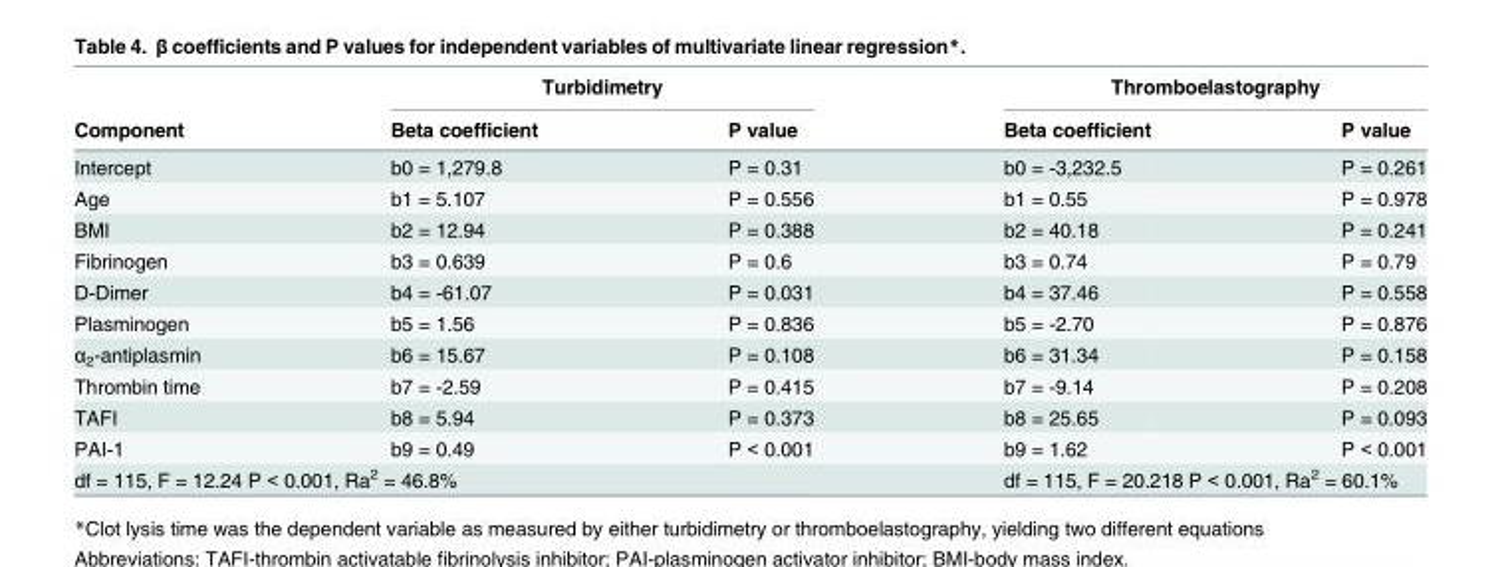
<table><thead><tr><td rowspan="2">Component</td><td colspan="2">Turbidimetry</td><td colspan="2">Thromboelastography</td></tr><tr><td>Beta coefficient</td><td>P value</td><td>Beta coefficient</td><td>P value</td></tr></thead><tbody><tr><td>Intercept</td><td>b0 = 1,279.8</td><td>P = 0.31</td><td>b0 = -3,232.5</td><td>P = 0.261</td></tr><tr><td>Age</td><td>b1 = 5.107</td><td>P = 0.556</td><td>b1 = 0.55</td><td>P = 0.978</td></tr><tr><td>BMI</td><td>b2 = 12.94</td><td>P = 0.388</td><td>b2 = 40.18</td><td>P = 0.241</td></tr><tr><td>Fibrinogen</td><td>b3 = 0.639</td><td>P = 0.6</td><td>b3 = 0.74</td><td>P = 0.79</td></tr><tr><td>D-Dimer</td><td>b4 = -61.07</td><td>P = 0.031</td><td>b4 = 37.46</td><td>P = 0.558</td></tr><tr><td>Plasminogen</td><td>b5 = 1.56</td><td>P = 0.836</td><td>b5 = -2.70</td><td>P = 0.876</td></tr><tr><td>α<sub>2</sub>-antiplasmin</td><td>b6 = 15.67</td><td>P = 0.108</td><td>b6 = 31.34</td><td>P = 0.158</td></tr><tr><td>Thrombin time</td><td>b7 = -2.59</td><td>P = 0.415</td><td>b7 = -9.14</td><td>P = 0.208</td></tr><tr><td>TAFI</td><td>b8 = 5.94</td><td>P = 0.373</td><td>b8 = 25.65</td><td>P = 0.093</td></tr><tr><td>PAI-1</td><td>b9 = 0.49</td><td>P &lt; 0.001</td><td>b9 = 1.62</td><td>P &lt; 0.001</td></tr><tr><td colspan="3">df = 115, F = 12.24 P &lt; 0.001, Ra<sup>2</sup> = 46.8%</td><td colspan="2">df = 115, F = 20.218 P &lt; 0.001, Ra<sup>2</sup> = 60.1%</td></tr></tbody></table>